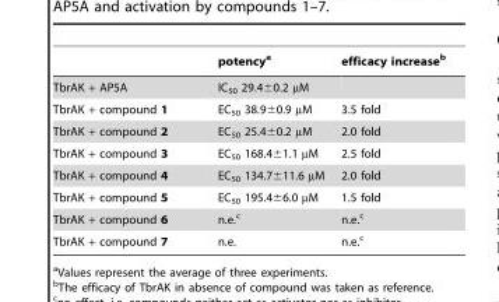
<table><thead><tr><td></td><td>potency<sup>a</sup></td><td>efficacy increase<sup>b</sup></td></tr></thead><tbody><tr><td>TbrAK + AP5A</td><td>IC<sub>50</sub> 29.4±0.2 µM</td><td></td></tr><tr><td>TbrAK + compound 1</td><td>EC<sub>50</sub> 38.9±0.9 µM</td><td>3.5 fold</td></tr><tr><td>TbrAK + compound 2</td><td>EC<sub>50</sub> 25.4±0.2 µM</td><td>2.0 fold</td></tr><tr><td>TbrAK + compound 3</td><td>EC<sub>50</sub> 168.4±1.1 µM</td><td>2.5 fold</td></tr><tr><td>TbrAK + compound 4</td><td>EC<sub>50</sub> 134.7±11.6 µM</td><td>2.0 fold</td></tr><tr><td>TbrAK + compound 5</td><td>EC<sub>50</sub> 195.4±6.0 µM</td><td>1.5 fold</td></tr><tr><td>TbrAK + compound 6</td><td>n.e.<sup>c</sup></td><td>n.e.<sup>c</sup></td></tr><tr><td>TbrAK + compound 7</td><td>n.e.</td><td>n.e.<sup>c</sup></td></tr></tbody></table>